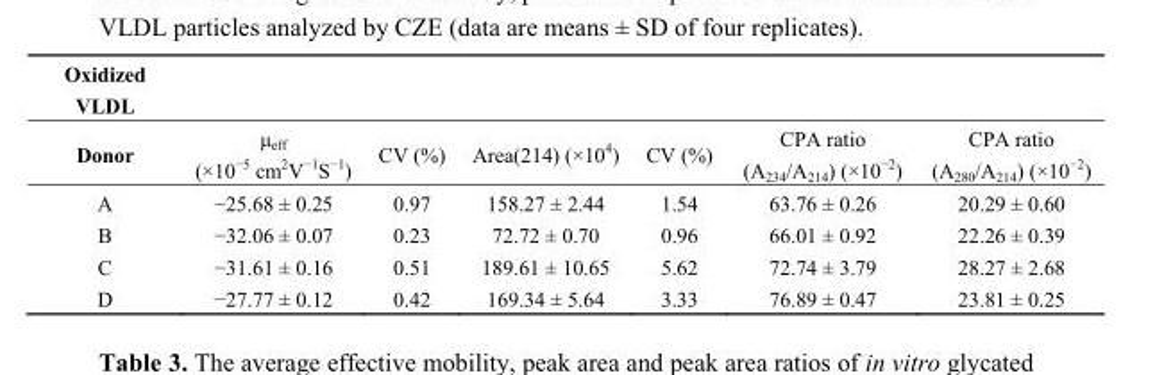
<table><thead><tr><td rowspan="2">Oxidized VLDL Donor</td><td rowspan="2">μ<sub>eff</sub> (×10<sup>−5</sup> cm<sup>2</sup>V<sup>−1</sup>S<sup>−1</sup>)</td><td rowspan="2">CV (%)</td><td rowspan="2">Area(214) (×10<sup>4</sup>)</td><td rowspan="2">CV (%)</td><td rowspan="2">CPA ratio (A<sub>234</sub>/A<sub>214</sub>) (×10<sup>−2</sup>)</td><td rowspan="2">CPA ratio (A<sub>280</sub>/A<sub>214</sub>) (×10<sup>−2</sup>)</td></tr><tr></tr></thead><tbody><tr><td>A</td><td>−25.68 ± 0.25</td><td>0.97</td><td>158.27 ± 2.44</td><td>1.54</td><td>63.76 ± 0.26</td><td>20.29 ± 0.60</td></tr><tr><td>B</td><td>−32.06 ± 0.07</td><td>0.23</td><td>72.72 ± 0.70</td><td>0.96</td><td>66.01 ± 0.92</td><td>22.26 ± 0.39</td></tr><tr><td>C</td><td>−31.61 ± 0.16</td><td>0.51</td><td>189.61 ± 10.65</td><td>5.62</td><td>72.74 ± 3.79</td><td>28.27 ± 2.68</td></tr><tr><td>D</td><td>−27.77 ± 0.12</td><td>0.42</td><td>169.34 ± 5.64</td><td>3.33</td><td>76.89 ± 0.47</td><td>23.81 ± 0.25</td></tr></tbody></table>